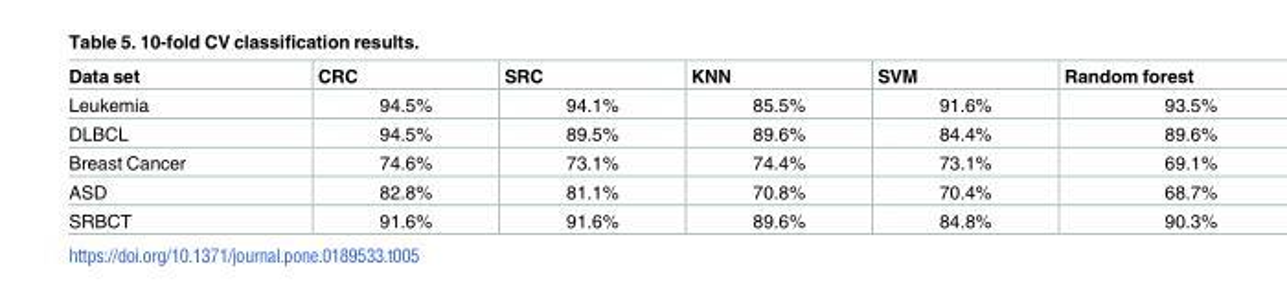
<table><thead><tr><td>Data set</td><td>CRC</td><td>SRC</td><td>KNN</td><td>SVM</td><td>Random forest</td></tr></thead><tbody><tr><td>Leukemia</td><td>94.5%</td><td>94.1%</td><td>85.5%</td><td>91.6%</td><td>93.5%</td></tr><tr><td>DLBCL</td><td>94.5%</td><td>89.5%</td><td>89.6%</td><td>84.4%</td><td>89.6%</td></tr><tr><td>Breast Cancer</td><td>74.6%</td><td>73.1%</td><td>74.4%</td><td>73.1%</td><td>69.1%</td></tr><tr><td>ASD</td><td>82.8%</td><td>81.1%</td><td>70.8%</td><td>70.4%</td><td>68.7%</td></tr><tr><td>SRBCT</td><td>91.6%</td><td>91.6%</td><td>89.6%</td><td>84.8%</td><td>90.3%</td></tr></tbody></table>